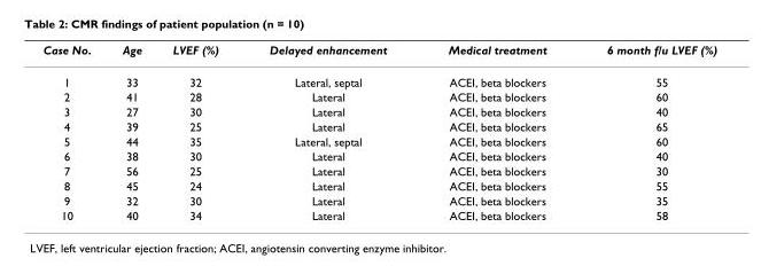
<table><thead><tr><td>Case No.</td><td>Age</td><td>LVEF (%)</td><td>Delayed enhancement</td><td>Medical treatment</td><td>6 month f/u LVEF (%)</td></tr></thead><tbody><tr><td>1</td><td>33</td><td>32</td><td>Lateral, septal</td><td>ACEI, beta blockers</td><td>55</td></tr><tr><td>2</td><td>41</td><td>28</td><td>Lateral</td><td>ACEI, beta blockers</td><td>60</td></tr><tr><td>3</td><td>27</td><td>30</td><td>Lateral</td><td>ACEI, beta blockers</td><td>40</td></tr><tr><td>4</td><td>39</td><td>25</td><td>Lateral</td><td>ACEI, beta blockers</td><td>65</td></tr><tr><td>5</td><td>44</td><td>35</td><td>Lateral, septal</td><td>ACEI, beta blockers</td><td>60</td></tr><tr><td>6</td><td>38</td><td>30</td><td>Lateral</td><td>ACEI, beta blockers</td><td>40</td></tr><tr><td>7</td><td>56</td><td>25</td><td>Lateral</td><td>ACEI, beta blockers</td><td>30</td></tr><tr><td>8</td><td>45</td><td>24</td><td>Lateral</td><td>ACEI, beta blockers</td><td>55</td></tr><tr><td>9</td><td>32</td><td>30</td><td>Lateral</td><td>ACEI, beta blockers</td><td>35</td></tr><tr><td>10</td><td>40</td><td>34</td><td>Lateral</td><td>ACEI, beta blockers</td><td>58</td></tr></tbody></table>